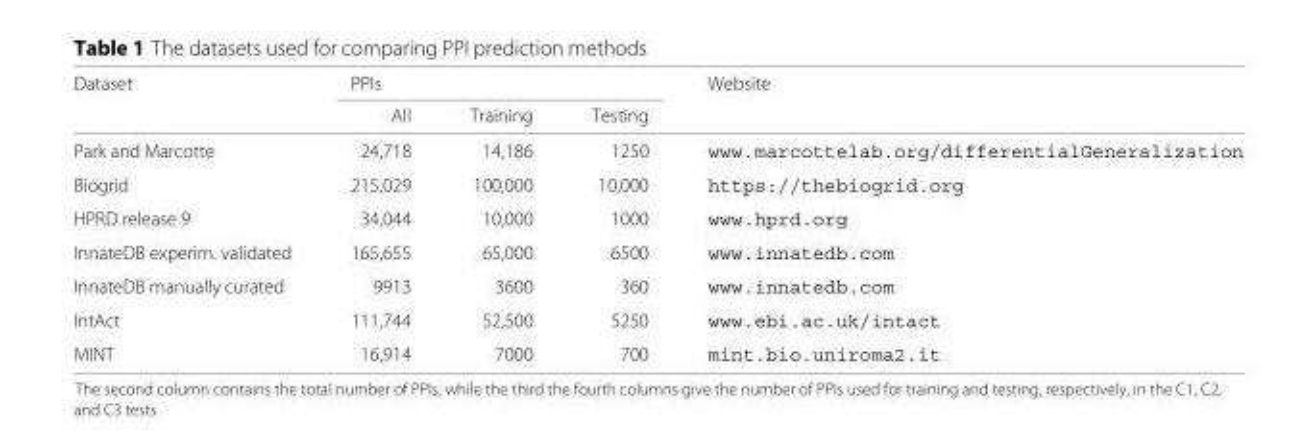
<table><thead><tr><td rowspan="2">Dataset</td><td colspan="3">PPIs</td><td rowspan="2">Website</td></tr><tr><td>All</td><td>Training</td><td>Testing</td></tr></thead><tbody><tr><td>Park and Marcotte</td><td>24,718</td><td>14,186</td><td>1250</td><td>www.marcottelab.org/differentialGeneralization</td></tr><tr><td>Biogrid</td><td>215,029</td><td>100,000</td><td>10,000</td><td>https://thebiogrid.org</td></tr><tr><td>HPRD release 9</td><td>34,044</td><td>10,000</td><td>1000</td><td>www.hprd.org</td></tr><tr><td>InnateDB experim. validated</td><td>165,655</td><td>65,000</td><td>6500</td><td>www.innatedb.com</td></tr><tr><td>InnateDB manually curated</td><td>9913</td><td>3600</td><td>360</td><td>www.innatedb.com</td></tr><tr><td>IntAct</td><td>111,744</td><td>52,500</td><td>5250</td><td>www.ebi.ac.uk/intact</td></tr><tr><td>MINT</td><td>16,914</td><td>7000</td><td>700</td><td>mint.bio.uniroma2.it</td></tr></tbody></table>